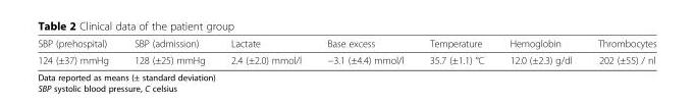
<table><thead><tr><td>SBP (prehospital)</td><td>SBP (admission)</td><td>Lactate</td><td>Base excess</td><td>Temperature</td><td>Hemoglobin</td><td>Thrombocytes</td></tr></thead><tbody><tr><td>124 (±37) mmHg</td><td>128 (±25) mmHg</td><td>2.4 (±2.0) mmol/l</td><td>−3.1 (±4.4) mmol/l</td><td>35.7 (±1.1) °C</td><td>12.0 (±2.3) g/dl</td><td>202 (±55) / nl</td></tr></tbody></table>